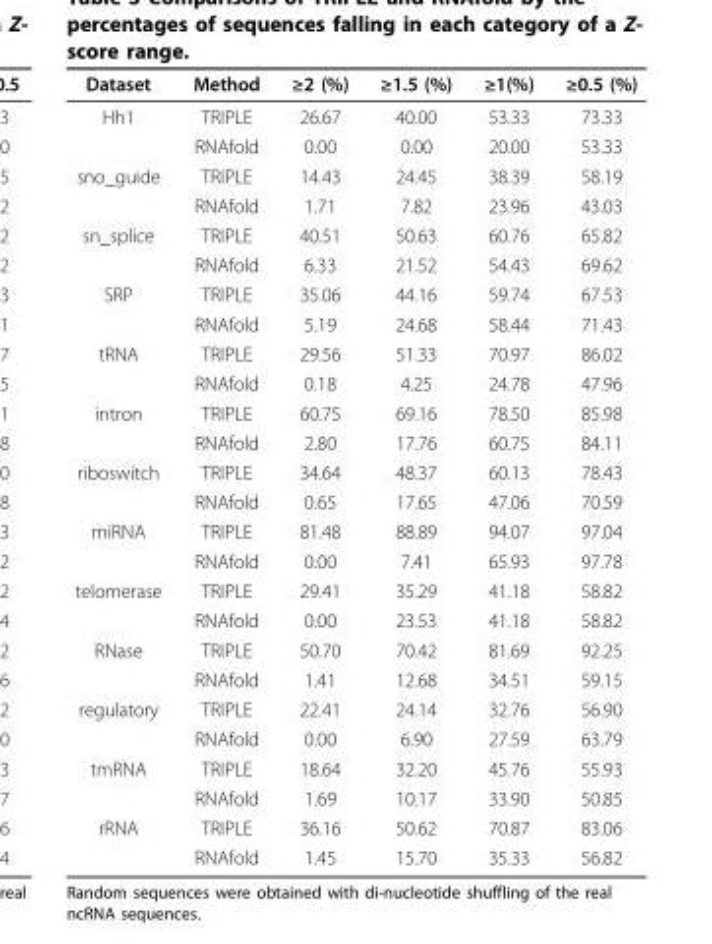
<table><thead><tr><td>Dataset</td><td>Method</td><td>≥2 (%)</td><td>≥1.5 (%)</td><td>≥1(%)</td><td>≥0.5 (%)</td></tr></thead><tbody><tr><td rowspan="2">Hh1</td><td>TRIPLE</td><td>26.67</td><td>40.00</td><td>53.33</td><td>73.33</td></tr><tr><td>RNAfold</td><td>0.00</td><td>0.00</td><td>20.00</td><td>53.33</td></tr><tr><td rowspan="2">sno_guide</td><td>TRIPLE</td><td>14.43</td><td>24.45</td><td>38.39</td><td>58.19</td></tr><tr><td>RNAfold</td><td>1.71</td><td>7.82</td><td>23.96</td><td>43.03</td></tr><tr><td rowspan="2">sn_splice</td><td>TRIPLE</td><td>40.51</td><td>50.63</td><td>60.76</td><td>65.82</td></tr><tr><td>RNAfold</td><td>6.33</td><td>21.52</td><td>54.43</td><td>69.62</td></tr><tr><td rowspan="2">SRP</td><td>TRIPLE</td><td>35.06</td><td>44.16</td><td>59.74</td><td>67.53</td></tr><tr><td>RNAfold</td><td>5.19</td><td>24.68</td><td>58.44</td><td>71.43</td></tr><tr><td rowspan="2">tRNA</td><td>TRIPLE</td><td>29.56</td><td>51.33</td><td>70.97</td><td>86.02</td></tr><tr><td>RNAfold</td><td>0.18</td><td>4.25</td><td>24.78</td><td>47.96</td></tr><tr><td rowspan="2">intron</td><td>TRIPLE</td><td>60.75</td><td>69.16</td><td>78.50</td><td>85.98</td></tr><tr><td>RNAfold</td><td>2.80</td><td>17.76</td><td>60.75</td><td>84.11</td></tr><tr><td rowspan="2">riboswitch</td><td>TRIPLE</td><td>34.64</td><td>48.37</td><td>60.13</td><td>78.43</td></tr><tr><td>RNAfold</td><td>0.65</td><td>17.65</td><td>47.06</td><td>70.59</td></tr><tr><td rowspan="2">miRNA</td><td>TRIPLE</td><td>81.48</td><td>88.89</td><td>94.07</td><td>97.04</td></tr><tr><td>RNAfold</td><td>0.00</td><td>7.41</td><td>65.93</td><td>97.78</td></tr><tr><td rowspan="2">telomerase</td><td>TRIPLE</td><td>29.41</td><td>35.29</td><td>41.18</td><td>58.82</td></tr><tr><td>RNAfold</td><td>0.00</td><td>23.53</td><td>41.18</td><td>58.82</td></tr><tr><td rowspan="2">RNase</td><td>TRIPLE</td><td>50.70</td><td>70.42</td><td>81.69</td><td>92.25</td></tr><tr><td>RNAfold</td><td>1.41</td><td>12.68</td><td>34.51</td><td>59.15</td></tr><tr><td rowspan="2">regulatory</td><td>TRIPLE</td><td>22.41</td><td>24.14</td><td>32.76</td><td>56.90</td></tr><tr><td>RNAfold</td><td>0.00</td><td>6.90</td><td>27.59</td><td>63.79</td></tr><tr><td rowspan="2">tmRNA</td><td>TRIPLE</td><td>18.64</td><td>32.20</td><td>45.76</td><td>55.93</td></tr><tr><td>RNAfold</td><td>1.69</td><td>10.17</td><td>33.90</td><td>50.85</td></tr><tr><td rowspan="2">rRNA</td><td>TRIPLE</td><td>36.16</td><td>50.62</td><td>70.87</td><td>83.06</td></tr><tr><td>RNAfold</td><td>1.45</td><td>15.70</td><td>35.33</td><td>56.82</td></tr></tbody></table>